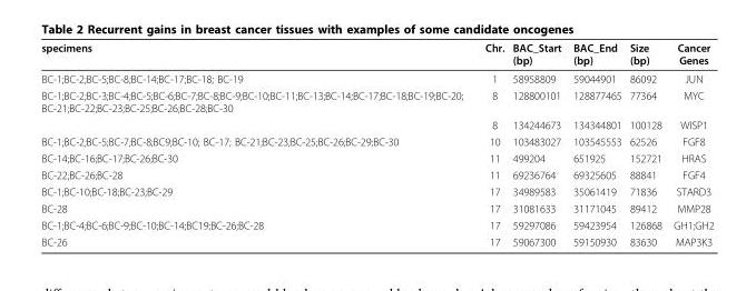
<table><thead><tr><td>specimens</td><td>Chr.</td><td>BAC_Start (bp)</td><td>BAC_End (bp)</td><td>Size (bp)</td><td>Cancer Genes</td></tr></thead><tbody><tr><td>BC-1;BC-2;BC-5;BC-8;BC-14;BC-17;BC-18; BC-19</td><td>1</td><td>58958809</td><td>59044901</td><td>86092</td><td>JUN</td></tr><tr><td rowspan="2">BC-1;BC-2;BC-3;BC-4;BC-5;BC-6;BC-7;BC-8;BC-9;BC-10;BC-11;BC-13;BC-14;BC-17;BC-18;BC-19;BC-20; BC-21;BC-22;BC-23;BC-25;BC-26;BC-28;BC-30</td><td>8</td><td>128800101</td><td>128877465</td><td>77364</td><td>MYC</td></tr><tr><td>8</td><td>134244673</td><td>134344801</td><td>100128</td><td>WISP1</td></tr><tr><td>BC-1;BC-2;BC-5;BC-7;BC-8;BC9;BC-10; BC-17; BC-21;BC-23;BC-25;BC-26;BC-29;BC-30</td><td>10</td><td>103483027</td><td>103545553</td><td>62526</td><td>FGF8</td></tr><tr><td>BC-14;BC-16;BC-17;BC-26;BC-30</td><td>11</td><td>499204</td><td>651925</td><td>152721</td><td>HRAS</td></tr><tr><td>BC-22;BC-26;BC-28</td><td>11</td><td>69236764</td><td>69325605</td><td>88841</td><td>FGF4</td></tr><tr><td>BC-1;BC-10;BC-18;BC-23;BC-29</td><td>17</td><td>34989583</td><td>35061419</td><td>71836</td><td>STARD3</td></tr><tr><td>BC-28</td><td>17</td><td>31081633</td><td>31171045</td><td>89412</td><td>MMP28</td></tr><tr><td>BC-1;BC-4;BC-6;BC-9;BC-10;BC-14;BC19;BC-26;BC-28</td><td>17</td><td>59297086</td><td>59423954</td><td>126868</td><td>GH1;GH2</td></tr><tr><td>BC-26</td><td>17</td><td>59067300</td><td>59150930</td><td>83630</td><td>MAP3K3</td></tr></tbody></table>